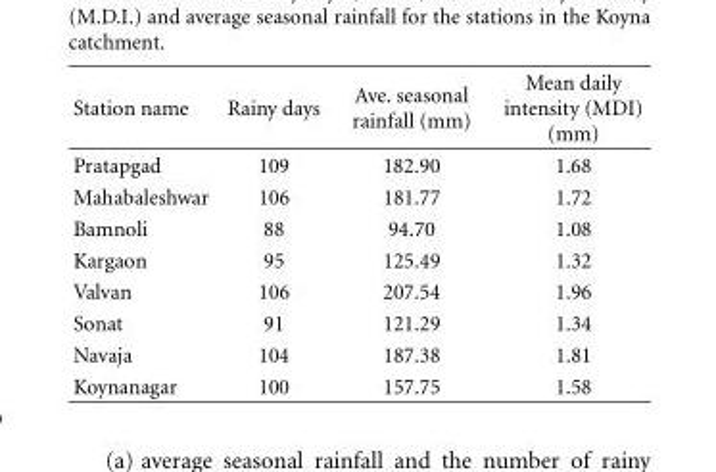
<table><thead><tr><td>Station name</td><td>Rainy days</td><td>Ave. seasonal rainfall (mm)</td><td>Mean daily intensity (MDI) (mm)</td></tr></thead><tbody><tr><td>Pratapgad</td><td>109</td><td>182.90</td><td>1.68</td></tr><tr><td>Mahabaleshwar</td><td>106</td><td>181.77</td><td>1.72</td></tr><tr><td>Bamnoli</td><td>88</td><td>94.70</td><td>1.08</td></tr><tr><td>Kargaon</td><td>95</td><td>125.49</td><td>1.32</td></tr><tr><td>Valvan</td><td>106</td><td>207.54</td><td>1.96</td></tr><tr><td>Sonat</td><td>91</td><td>121.29</td><td>1.34</td></tr><tr><td>Navaja</td><td>104</td><td>187.38</td><td>1.81</td></tr><tr><td>Koynanagar</td><td>100</td><td>157.75</td><td>1.58</td></tr></tbody></table>